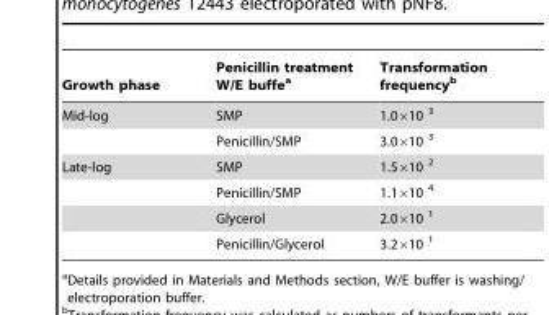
<table><thead><tr><td>Growth phase</td><td>Penicillin treatment W/E buffe<sup>a</sup></td><td>Transformation frequency<sup>b</sup></td></tr></thead><tbody><tr><td rowspan="2">Mid-log</td><td>SMP</td><td>1.0×10 <sup>3</sup></td></tr><tr><td>Penicillin/SMP</td><td>3.0×10 <sup>3</sup></td></tr><tr><td rowspan="4">Late-log</td><td>SMP</td><td>1.5×10 <sup>2</sup></td></tr><tr><td>Penicillin/SMP</td><td>1.1×10 <sup>4</sup></td></tr><tr><td>Glycerol</td><td>2.0×10 <sup>1</sup></td></tr><tr><td>Penicillin/Glycerol</td><td>3.2×10 <sup>1</sup></td></tr></tbody></table>